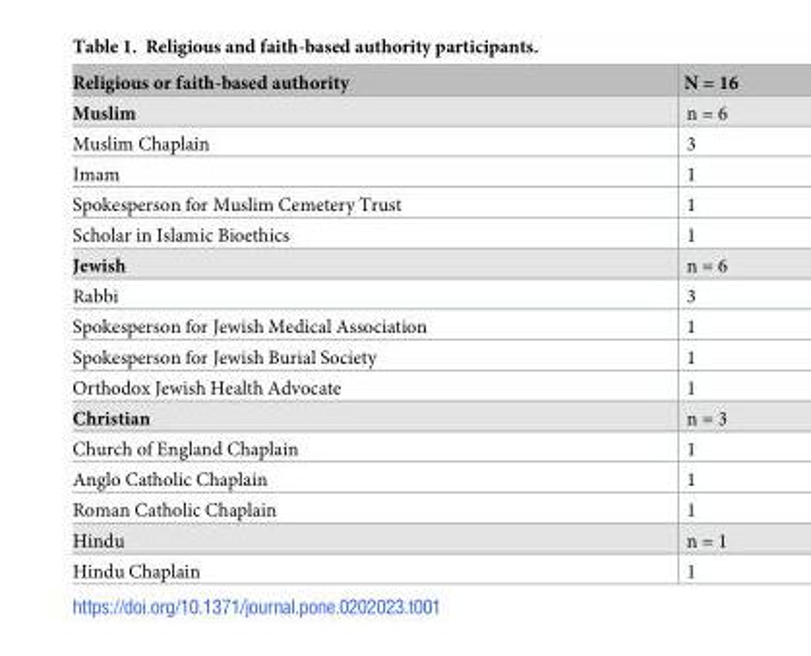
<table><thead><tr><td>Religious or faith-based authority</td><td>N = 16</td></tr></thead><tbody><tr><td>Muslim</td><td>n = 6</td></tr><tr><td>Muslim Chaplain</td><td>3</td></tr><tr><td>Imam</td><td>1</td></tr><tr><td>Spokesperson for Muslim Cemetery Trust</td><td>1</td></tr><tr><td>Scholar in Islamic Bioethics</td><td>1</td></tr><tr><td>Jewish</td><td>n = 6</td></tr><tr><td>Rabbi</td><td>3</td></tr><tr><td>Spokesperson for Jewish Medical Association</td><td>1</td></tr><tr><td>Spokesperson for Jewish Burial Society</td><td>1</td></tr><tr><td>Orthodox Jewish Health Advocate</td><td>1</td></tr><tr><td>Christian</td><td>n = 3</td></tr><tr><td>Church of England Chaplain</td><td>1</td></tr><tr><td>Anglo Catholic Chaplain</td><td>1</td></tr><tr><td>Roman Catholic Chaplain</td><td>1</td></tr><tr><td>Hindu</td><td>n = 1</td></tr><tr><td>Hindu Chaplain</td><td>1</td></tr></tbody></table>